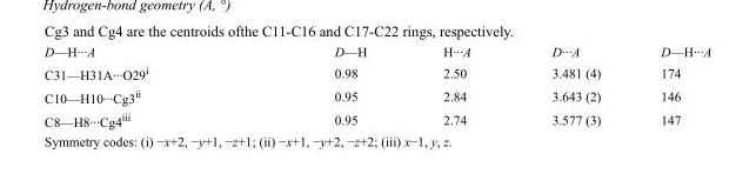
<table><tbody><tr><td>D—H···A</td><td>D—H</td><td>H···A</td><td>D···A</td><td>D—H···A</td></tr><tr><td>C31—H31A···O29<sup>i</sup></td><td>0.98</td><td>2.50</td><td>3.481 (4)</td><td>174</td></tr><tr><td>C10—H10···Cg3<sup>ii</sup></td><td>0.95</td><td>2.84</td><td>3.643 (2)</td><td>146</td></tr><tr><td>C8—H8···Cg4<sup>iii</sup></td><td>0.95</td><td>2.74</td><td>3.577 (3)</td><td>147</td></tr></tbody></table>